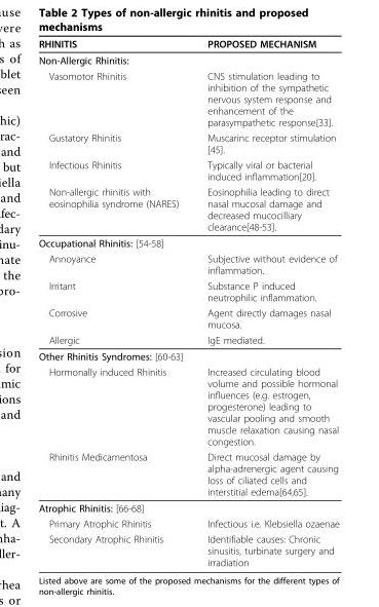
<table><thead><tr><td>RHINITIS</td><td>PROPOSED MECHANISM</td></tr></thead><tbody><tr><td colspan="2">Non-Allergic Rhinitis:</td></tr><tr><td>Vasomotor Rhinitis</td><td>CNS stimulation leading to inhibition of the sympathetic nervous system response and enhancement of the parasympathetic response[33].</td></tr><tr><td>Gustatory Rhinitis</td><td>Muscarinc receptor stimulation [45].</td></tr><tr><td>Infectious Rhinitis</td><td>Typically viral or bacterial induced inflammation[20].</td></tr><tr><td>Non-allergic rhinitis with eosinophilia syndrome (NARES)</td><td>Eosinophilia leading to direct nasal mucosal damage and decreased mucocilliary clearance[48-53].</td></tr><tr><td colspan="2">Occupational Rhinitis: [54-58]</td></tr><tr><td>Annoyance</td><td>Subjective without evidence of inflammation.</td></tr><tr><td>Irritant</td><td>Substance P induced neutrophilic inflammation.</td></tr><tr><td>Corrosive</td><td>Agent directly damages nasal mucosa.</td></tr><tr><td>Allergic</td><td>IgE mediated.</td></tr><tr><td colspan="2">Other Rhinitis Syndromes: [60-63]</td></tr><tr><td>Hormonally induced Rhinitis</td><td>Increased circulating blood volume and possible hormonal influences (e.g. estrogen, progesterone) leading to vascular pooling and smooth muscle relaxation causing nasal congestion.</td></tr><tr><td>Rhinitis Medicamentosa</td><td>Direct mucosal damage by alpha-adrenergic agent causing loss of ciliated cells and interstitial edema[64,65].</td></tr><tr><td colspan="2">Atrophic Rhinitis: [66-68]</td></tr><tr><td>Primary Atrophic Rhinitis</td><td>Infectious i.e. Klebsiella ozaenae</td></tr><tr><td>Secondary Atrophic Rhinitis</td><td>Identifiable causes: Chronic sinusitis, turbinate surgery and irradiation</td></tr></tbody></table>